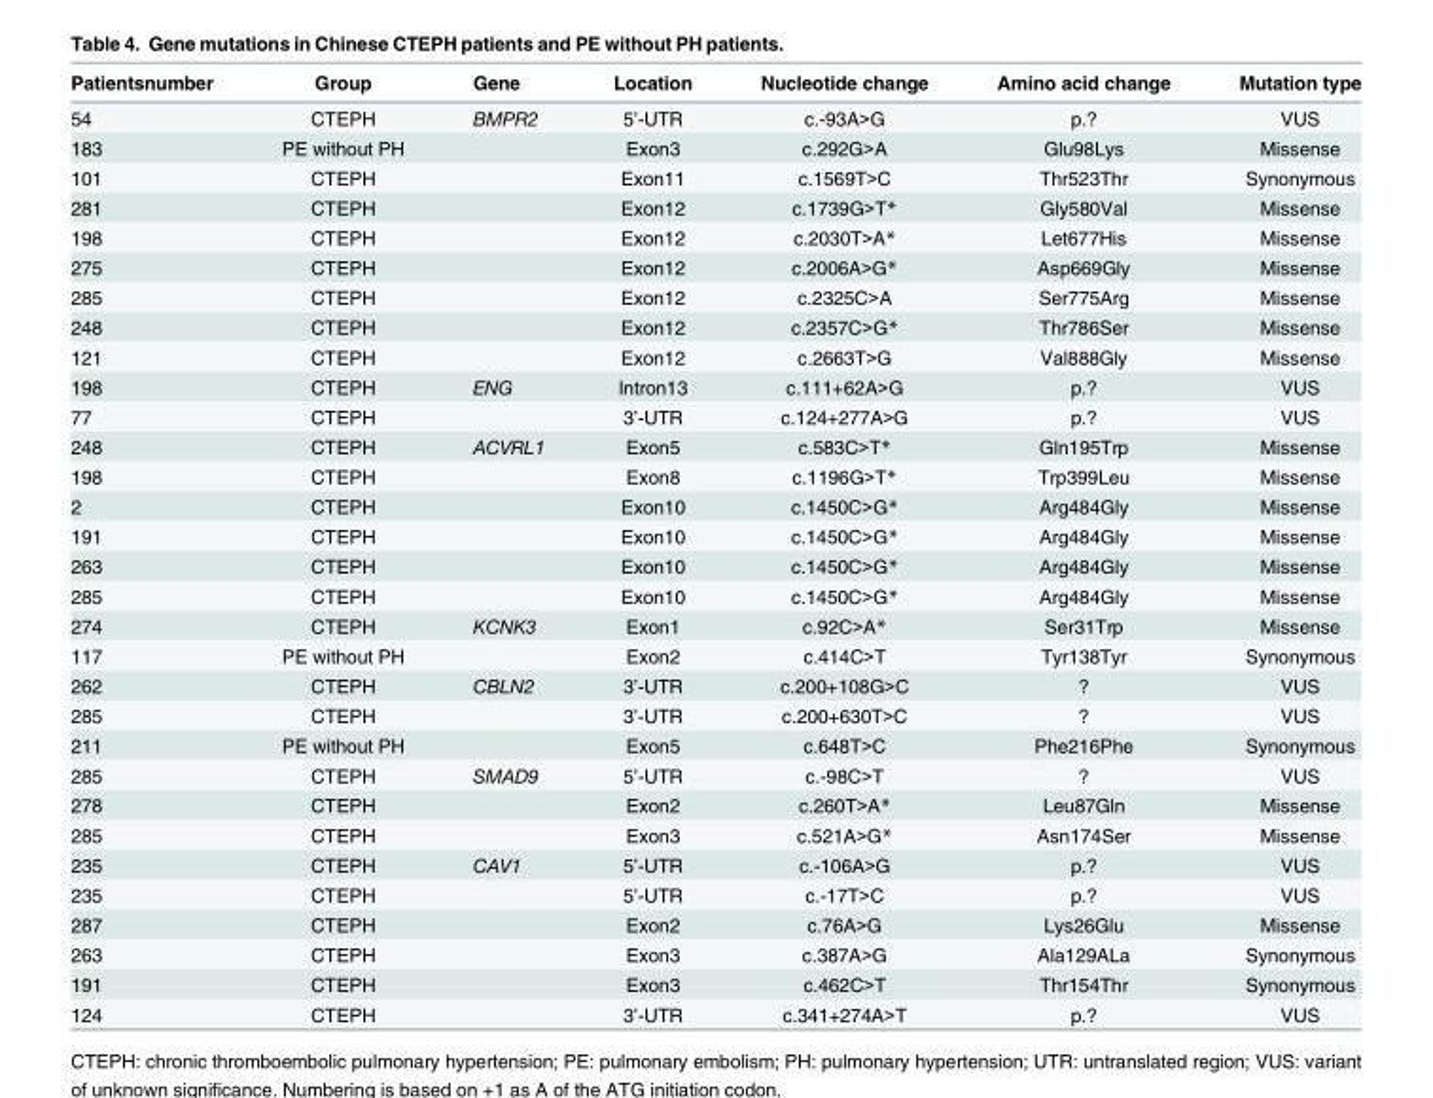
<table><thead><tr><td>Patientsnumber</td><td>Group</td><td>Gene</td><td>Location</td><td>Nucleotide change</td><td>Amino acid change</td><td>Mutation type</td></tr></thead><tbody><tr><td>54</td><td>CTEPH</td><td>BMPR2</td><td>5’-UTR</td><td>c.-93A&gt;G</td><td>p.?</td><td>VUS</td></tr><tr><td>183</td><td>PE without PH</td><td></td><td>Exon3</td><td>c.292G&gt;A</td><td>Glu98Lys</td><td>Missense</td></tr><tr><td>101</td><td>CTEPH</td><td></td><td>Exon11</td><td>c.1569T&gt;C</td><td>Thr523Thr</td><td>Synonymous</td></tr><tr><td>281</td><td>CTEPH</td><td></td><td>Exon12</td><td>c.1739G&gt;T*</td><td>Gly580Val</td><td>Missense</td></tr><tr><td>198</td><td>CTEPH</td><td></td><td>Exon12</td><td>c.2030T&gt;A*</td><td>Let677His</td><td>Missense</td></tr><tr><td>275</td><td>CTEPH</td><td></td><td>Exon12</td><td>c.2006A&gt;G*</td><td>Asp669Gly</td><td>Missense</td></tr><tr><td>285</td><td>CTEPH</td><td></td><td>Exon12</td><td>c.2325C&gt;A</td><td>Ser775Arg</td><td>Missense</td></tr><tr><td>248</td><td>CTEPH</td><td></td><td>Exon12</td><td>c.2357C&gt;G*</td><td>Thr786Ser</td><td>Missense</td></tr><tr><td>121</td><td>CTEPH</td><td></td><td>Exon12</td><td>c.2663T&gt;G</td><td>Val888Gly</td><td>Missense</td></tr><tr><td>198</td><td>CTEPH</td><td>ENG</td><td>Intron13</td><td>c.111+62A&gt;G</td><td>p.?</td><td>VUS</td></tr><tr><td>77</td><td>CTEPH</td><td></td><td>3’-UTR</td><td>c.124+277A&gt;G</td><td>p.?</td><td>VUS</td></tr><tr><td>248</td><td>CTEPH</td><td>ACVRL1</td><td>Exon5</td><td>c.583C&gt;T*</td><td>Gln195Trp</td><td>Missense</td></tr><tr><td>198</td><td>CTEPH</td><td></td><td>Exon8</td><td>c.1196G&gt;T*</td><td>Trp399Leu</td><td>Missense</td></tr><tr><td>2</td><td>CTEPH</td><td></td><td>Exon10</td><td>c.1450C&gt;G*</td><td>Arg484Gly</td><td>Missense</td></tr><tr><td>191</td><td>CTEPH</td><td></td><td>Exon10</td><td>c.1450C&gt;G*</td><td>Arg484Gly</td><td>Missense</td></tr><tr><td>263</td><td>CTEPH</td><td></td><td>Exon10</td><td>c.1450C&gt;G*</td><td>Arg484Gly</td><td>Missense</td></tr><tr><td>285</td><td>CTEPH</td><td></td><td>Exon10</td><td>c.1450C&gt;G*</td><td>Arg484Gly</td><td>Missense</td></tr><tr><td>274</td><td>CTEPH</td><td>KCNK3</td><td>Exon1</td><td>c.92C&gt;A*</td><td>Ser31Trp</td><td>Missense</td></tr><tr><td>117</td><td>PE without PH</td><td></td><td>Exon2</td><td>c.414C&gt;T</td><td>Tyr138Tyr</td><td>Synonymous</td></tr><tr><td>262</td><td>CTEPH</td><td>CBLN2</td><td>3’-UTR</td><td>c.200+108G&gt;C</td><td>?</td><td>VUS</td></tr><tr><td>285</td><td>CTEPH</td><td></td><td>3’-UTR</td><td>c.200+630T&gt;C</td><td>?</td><td>VUS</td></tr><tr><td>211</td><td>PE without PH</td><td></td><td>Exon5</td><td>c.648T&gt;C</td><td>Phe216Phe</td><td>Synonymous</td></tr><tr><td>285</td><td>CTEPH</td><td>SMAD9</td><td>5’-UTR</td><td>c.-98C&gt;T</td><td>?</td><td>VUS</td></tr><tr><td>278</td><td>CTEPH</td><td></td><td>Exon2</td><td>c.260T&gt;A*</td><td>Leu87Gln</td><td>Missense</td></tr><tr><td>285</td><td>CTEPH</td><td></td><td>Exon3</td><td>c.521A&gt;G*</td><td>Asn174Ser</td><td>Missense</td></tr><tr><td>235</td><td>CTEPH</td><td>CAV1</td><td>5’-UTR</td><td>c.-106A&gt;G</td><td>p.?</td><td>VUS</td></tr><tr><td>235</td><td>CTEPH</td><td></td><td>5’-UTR</td><td>c.-17T&gt;C</td><td>p.?</td><td>VUS</td></tr><tr><td>287</td><td>CTEPH</td><td></td><td>Exon2</td><td>c.76A&gt;G</td><td>Lys26Glu</td><td>Missense</td></tr><tr><td>263</td><td>CTEPH</td><td></td><td>Exon3</td><td>c.387A&gt;G</td><td>Ala129ALa</td><td>Synonymous</td></tr><tr><td>191</td><td>CTEPH</td><td></td><td>Exon3</td><td>c.462C&gt;T</td><td>Thr154Thr</td><td>Synonymous</td></tr><tr><td>124</td><td>CTEPH</td><td></td><td>3’-UTR</td><td>c.341+274A&gt;T</td><td>p.?</td><td>VUS</td></tr></tbody></table>